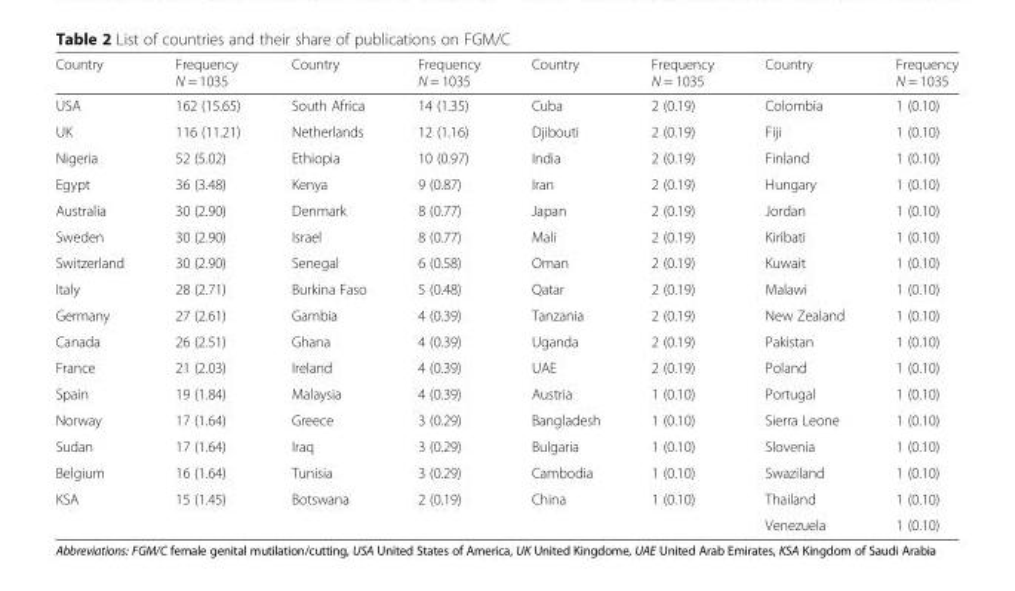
<table><thead><tr><td>Country</td><td>Frequency N = 1035</td><td>Country</td><td>Frequency N = 1035</td><td>Country</td><td>Frequency N = 1035</td><td>Country</td><td>Frequency N = 1035</td></tr></thead><tbody><tr><td>USA</td><td>162 (15.65)</td><td>South Africa</td><td>14 (1.35)</td><td>Cuba</td><td>2 (0.19)</td><td>Colombia</td><td>1 (0.10)</td></tr><tr><td>UK</td><td>116 (11.21)</td><td>Netherlands</td><td>12 (1.16)</td><td>Djibouti</td><td>2 (0.19)</td><td>Fiji</td><td>1 (0.10)</td></tr><tr><td>Nigeria</td><td>52 (5.02)</td><td>Ethiopia</td><td>10 (0.97)</td><td>India</td><td>2 (0.19)</td><td>Finland</td><td>1 (0.10)</td></tr><tr><td>Egypt</td><td>36 (3.48)</td><td>Kenya</td><td>9 (0.87)</td><td>Iran</td><td>2 (0.19)</td><td>Hungary</td><td>1 (0.10)</td></tr><tr><td>Australia</td><td>30 (2.90)</td><td>Denmark</td><td>8 (0.77)</td><td>Japan</td><td>2 (0.19)</td><td>Jordan</td><td>1 (0.10)</td></tr><tr><td>Sweden</td><td>30 (2.90)</td><td>Israel</td><td>8 (0.77)</td><td>Mali</td><td>2 (0.19)</td><td>Kiribati</td><td>1 (0.10)</td></tr><tr><td>Switzerland</td><td>30 (2.90)</td><td>Senegal</td><td>6 (0.58)</td><td>Oman</td><td>2 (0.19)</td><td>Kuwait</td><td>1 (0.10)</td></tr><tr><td>Italy</td><td>28 (2.71)</td><td>Burkina Faso</td><td>5 (0.48)</td><td>Qatar</td><td>2 (0.19)</td><td>Malawi</td><td>1 (0.10)</td></tr><tr><td>Germany</td><td>27 (2.61)</td><td>Gambia</td><td>4 (0.39)</td><td>Tanzania</td><td>2 (0.19)</td><td>New Zealand</td><td>1 (0.10)</td></tr><tr><td>Canada</td><td>26 (2.51)</td><td>Ghana</td><td>4 (0.39)</td><td>Uganda</td><td>2 (0.19)</td><td>Pakistan</td><td>1 (0.10)</td></tr><tr><td>France</td><td>21 (2.03)</td><td>Ireland</td><td>4 (0.39)</td><td>UAE</td><td>2 (0.19)</td><td>Poland</td><td>1 (0.10)</td></tr><tr><td>Spain</td><td>19 (1.84)</td><td>Malaysia</td><td>4 (0.39)</td><td>Austria</td><td>1 (0.10)</td><td>Portugal</td><td>1 (0.10)</td></tr><tr><td>Norway</td><td>17 (1.64)</td><td>Greece</td><td>3 (0.29)</td><td>Bangladesh</td><td>1 (0.10)</td><td>Sierra Leone</td><td>1 (0.10)</td></tr><tr><td>Sudan</td><td>17 (1.64)</td><td>Iraq</td><td>3 (0.29)</td><td>Bulgaria</td><td>1 (0.10)</td><td>Slovenia</td><td>1 (0.10)</td></tr><tr><td>Belgium</td><td>16 (1.64)</td><td>Tunisia</td><td>3 (0.29)</td><td>Cambodia</td><td>1 (0.10)</td><td>Swaziland</td><td>1 (0.10)</td></tr><tr><td rowspan="2">KSA</td><td>15 (1.45)</td><td>Botswana</td><td>2 (0.19)</td><td>China</td><td>1 (0.10)</td><td>Thailand</td><td>1 (0.10)</td></tr><tr><td></td><td></td><td></td><td></td><td></td><td>Venezuela</td><td>1 (0.10)</td></tr></tbody></table>